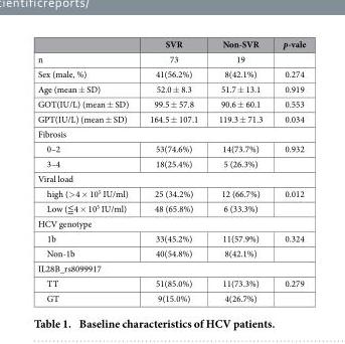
<table><thead><tr><td></td><td>SVR</td><td>Non-SVR</td><td>p-vale</td></tr></thead><tbody><tr><td>n</td><td>73</td><td>19</td><td></td></tr><tr><td>Sex (male, %)</td><td>41(56.2%)</td><td>8(42.1%)</td><td>0.274</td></tr><tr><td>Age (mean ± SD)</td><td>52.0 ± 8.3</td><td>51.7 ± 13.1</td><td>0.919</td></tr><tr><td>GOT(IU/L) (mean ± SD)</td><td>99.5 ± 57.8</td><td>90.6 ± 60.1</td><td>0.553</td></tr><tr><td>GPT(IU/L) (mean ± SD)</td><td>164.5 ± 107.1</td><td>119.3 ± 71.3</td><td>0.034</td></tr><tr><td colspan="4">Fibrosis</td></tr><tr><td>0–2</td><td>53(74.6%)</td><td>14(73.7%)</td><td>0.932</td></tr><tr><td>3–4</td><td>18(25.4%)</td><td>5 (26.3%)</td><td></td></tr><tr><td colspan="4">Viral load</td></tr><tr><td>high (&gt; 4 × 10<sup>5</sup> IU/ml)</td><td>25 (34.2%)</td><td>12 (66.7%)</td><td>0.012</td></tr><tr><td>Low (≦ 4 × 10<sup>5</sup> IU/ml)</td><td>48 (65.8%)</td><td>6 (33.3%)</td><td></td></tr><tr><td colspan="4">HCV genotype</td></tr><tr><td>1b</td><td>33(45.2%)</td><td>11(57.9%)</td><td>0.324</td></tr><tr><td>Non-1b</td><td>40(54.8%)</td><td>8(42.1%)</td><td></td></tr><tr><td colspan="4">IL28B_rs8099917</td></tr><tr><td>TT</td><td>51(85.0%)</td><td>11(73.3%)</td><td>0.279</td></tr><tr><td>GT</td><td>9(15.0%)</td><td>4(26.7%)</td><td></td></tr></tbody></table>